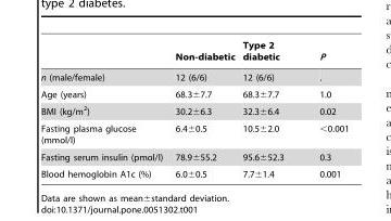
<table><thead><tr><td></td><td>Non-diabetic</td><td>Type 2 diabetic</td><td>P</td></tr></thead><tbody><tr><td>n (male/female)</td><td>12 (6/6)</td><td>12 (6/6)</td><td>.</td></tr><tr><td>Age (years)</td><td>68.3±7.7</td><td>68.3±7.7</td><td>1.0</td></tr><tr><td>BMI (kg/m<sup>2</sup>)</td><td>30.2±6.3</td><td>32.3±6.4</td><td>0.02</td></tr><tr><td>Fasting plasma glucose (mmol/l)</td><td>6.4±0.5</td><td>10.5±2.0</td><td>&lt;0.001</td></tr><tr><td>Fasting serum insulin (pmol/l)</td><td>78.9±55.2</td><td>95.6±52.3</td><td>0.3</td></tr><tr><td>Blood hemoglobin A1c (%)</td><td>6.0±0.5</td><td>7.7±1.4</td><td>0.001</td></tr></tbody></table>